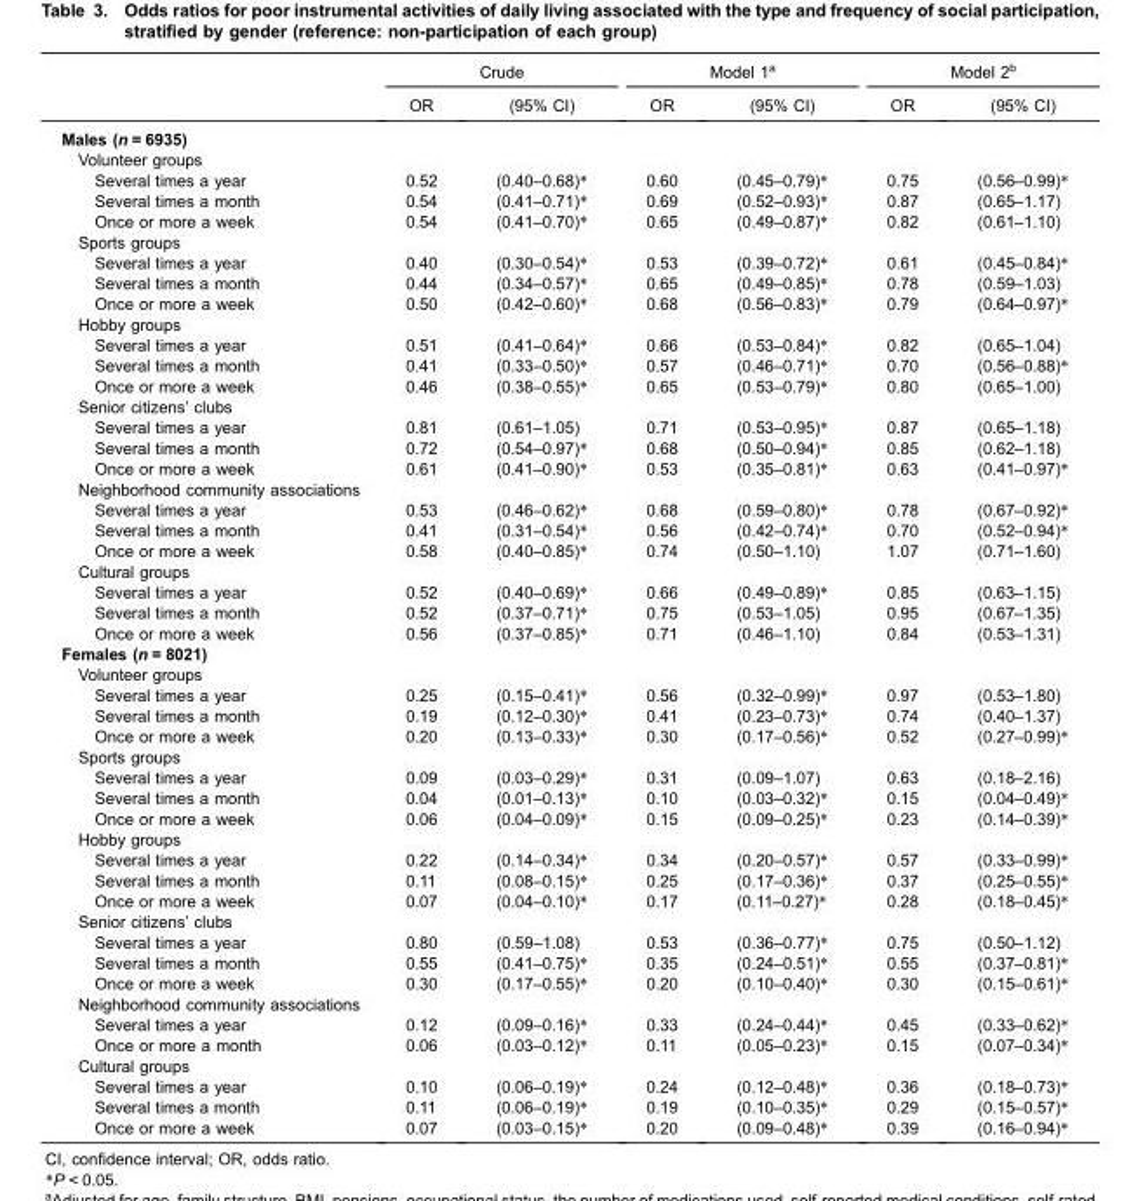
<table><thead><tr><td rowspan="2"></td><td colspan="2">Crude</td><td colspan="2">Model 1<sup>a</sup></td><td colspan="2">Model 2<sup>b</sup></td></tr><tr><td>OR</td><td>(95% CI)</td><td>OR</td><td>(95% CI)</td><td>OR</td><td>(95% CI)</td></tr></thead><tbody><tr><td colspan="7">Males (n = 6935)</td></tr><tr><td colspan="7">Volunteer groups</td></tr><tr><td>Several times a year</td><td>0.52</td><td>(0.40–0.68)*</td><td>0.60</td><td>(0.45–0.79)*</td><td>0.75</td><td>(0.56–0.99)*</td></tr><tr><td>Several times a month</td><td>0.54</td><td>(0.41–0.71)*</td><td>0.69</td><td>(0.52–0.93)*</td><td>0.87</td><td>(0.65–1.17)</td></tr><tr><td>Once or more a week</td><td>0.54</td><td>(0.41–0.70)*</td><td>0.65</td><td>(0.49–0.87)*</td><td>0.82</td><td>(0.61–1.10)</td></tr><tr><td colspan="7">Sports groups</td></tr><tr><td>Several times a year</td><td>0.40</td><td>(0.30–0.54)*</td><td>0.53</td><td>(0.39–0.72)*</td><td>0.61</td><td>(0.45–0.84)*</td></tr><tr><td>Several times a month</td><td>0.44</td><td>(0.34–0.57)*</td><td>0.65</td><td>(0.49–0.85)*</td><td>0.78</td><td>(0.59–1.03)</td></tr><tr><td>Once or more a week</td><td>0.50</td><td>(0.42–0.60)*</td><td>0.68</td><td>(0.56–0.83)*</td><td>0.79</td><td>(0.64–0.97)*</td></tr><tr><td colspan="7">Hobby groups</td></tr><tr><td>Several times a year</td><td>0.51</td><td>(0.41–0.64)*</td><td>0.66</td><td>(0.53–0.84)*</td><td>0.82</td><td>(0.65–1.04)</td></tr><tr><td>Several times a month</td><td>0.41</td><td>(0.33–0.50)*</td><td>0.57</td><td>(0.46–0.71)*</td><td>0.70</td><td>(0.56–0.88)*</td></tr><tr><td>Once or more a week</td><td>0.46</td><td>(0.38–0.55)*</td><td>0.65</td><td>(0.53–0.79)*</td><td>0.80</td><td>(0.65–1.00)</td></tr><tr><td colspan="7">Senior citizens’ clubs</td></tr><tr><td>Several times a year</td><td>0.81</td><td>(0.61–1.05)</td><td>0.71</td><td>(0.53–0.95)*</td><td>0.87</td><td>(0.65–1.18)</td></tr><tr><td>Several times a month</td><td>0.72</td><td>(0.54–0.97)*</td><td>0.68</td><td>(0.50–0.94)*</td><td>0.85</td><td>(0.62–1.18)</td></tr><tr><td>Once or more a week</td><td>0.61</td><td>(0.41–0.90)*</td><td>0.53</td><td>(0.35–0.81)*</td><td>0.63</td><td>(0.41–0.97)*</td></tr><tr><td colspan="7">Neighborhood community associations</td></tr><tr><td>Several times a year</td><td>0.53</td><td>(0.46–0.62)*</td><td>0.68</td><td>(0.59–0.80)*</td><td>0.78</td><td>(0.67–0.92)*</td></tr><tr><td>Several times a month</td><td>0.41</td><td>(0.31–0.54)*</td><td>0.56</td><td>(0.42–0.74)*</td><td>0.70</td><td>(0.52–0.94)*</td></tr><tr><td>Once or more a week</td><td>0.58</td><td>(0.40–0.85)*</td><td>0.74</td><td>(0.50–1.10)</td><td>1.07</td><td>(0.71–1.60)</td></tr><tr><td colspan="7">Cultural groups</td></tr><tr><td>Several times a year</td><td>0.52</td><td>(0.40–0.69)*</td><td>0.66</td><td>(0.49–0.89)*</td><td>0.85</td><td>(0.63–1.15)</td></tr><tr><td>Several times a month</td><td>0.52</td><td>(0.37–0.71)*</td><td>0.75</td><td>(0.53–1.05)</td><td>0.95</td><td>(0.67–1.35)</td></tr><tr><td>Once or more a week</td><td>0.56</td><td>(0.37–0.85)*</td><td>0.71</td><td>(0.46–1.10)</td><td>0.84</td><td>(0.53–1.31)</td></tr><tr><td colspan="7">Females (n = 8021)</td></tr><tr><td colspan="7">Volunteer groups</td></tr><tr><td>Several times a year</td><td>0.25</td><td>(0.15–0.41)*</td><td>0.56</td><td>(0.32–0.99)*</td><td>0.97</td><td>(0.53–1.80)</td></tr><tr><td>Several times a month</td><td>0.19</td><td>(0.12–0.30)*</td><td>0.41</td><td>(0.23–0.73)*</td><td>0.74</td><td>(0.40–1.37)</td></tr><tr><td>Once or more a week</td><td>0.20</td><td>(0.13–0.33)*</td><td>0.30</td><td>(0.17–0.56)*</td><td>0.52</td><td>(0.27–0.99)*</td></tr><tr><td colspan="7">Sports groups</td></tr><tr><td>Several times a year</td><td>0.09</td><td>(0.03–0.29)*</td><td>0.31</td><td>(0.09–1.07)</td><td>0.63</td><td>(0.18–2.16)</td></tr><tr><td>Several times a month</td><td>0.04</td><td>(0.01–0.13)*</td><td>0.10</td><td>(0.03–0.32)*</td><td>0.15</td><td>(0.04–0.49)*</td></tr><tr><td>Once or more a week</td><td>0.06</td><td>(0.04–0.09)*</td><td>0.15</td><td>(0.09–0.25)*</td><td>0.23</td><td>(0.14–0.39)*</td></tr><tr><td colspan="7">Hobby groups</td></tr><tr><td>Several times a year</td><td>0.22</td><td>(0.14–0.34)*</td><td>0.34</td><td>(0.20–0.57)*</td><td>0.57</td><td>(0.33–0.99)*</td></tr><tr><td>Several times a month</td><td>0.11</td><td>(0.08–0.15)*</td><td>0.25</td><td>(0.17–0.36)*</td><td>0.37</td><td>(0.25–0.55)*</td></tr><tr><td>Once or more a week</td><td>0.07</td><td>(0.04–0.10)*</td><td>0.17</td><td>(0.11–0.27)*</td><td>0.28</td><td>(0.18–0.45)*</td></tr><tr><td colspan="7">Senior citizens’ clubs</td></tr><tr><td>Several times a year</td><td>0.80</td><td>(0.59–1.08)</td><td>0.53</td><td>(0.36–0.77)*</td><td>0.75</td><td>(0.50–1.12)</td></tr><tr><td>Several times a month</td><td>0.55</td><td>(0.41–0.75)*</td><td>0.35</td><td>(0.24–0.51)*</td><td>0.55</td><td>(0.37–0.81)*</td></tr><tr><td>Once or more a week</td><td>0.30</td><td>(0.17–0.55)*</td><td>0.20</td><td>(0.10–0.40)*</td><td>0.30</td><td>(0.15–0.61)*</td></tr><tr><td colspan="7">Neighborhood community associations</td></tr><tr><td>Several times a year</td><td>0.12</td><td>(0.09–0.16)*</td><td>0.33</td><td>(0.24–0.44)*</td><td>0.45</td><td>(0.33–0.62)*</td></tr><tr><td>Once or more a month</td><td>0.06</td><td>(0.03–0.12)*</td><td>0.11</td><td>(0.05–0.23)*</td><td>0.15</td><td>(0.07–0.34)*</td></tr><tr><td colspan="7">Cultural groups</td></tr><tr><td>Several times a year</td><td>0.10</td><td>(0.06–0.19)*</td><td>0.24</td><td>(0.12–0.48)*</td><td>0.36</td><td>(0.18–0.73)*</td></tr><tr><td>Several times a month</td><td>0.11</td><td>(0.06–0.19)*</td><td>0.19</td><td>(0.10–0.35)*</td><td>0.29</td><td>(0.15–0.57)*</td></tr><tr><td>Once or more a week</td><td>0.07</td><td>(0.03–0.15)*</td><td>0.20</td><td>(0.09–0.48)*</td><td>0.39</td><td>(0.16–0.94)*</td></tr></tbody></table>